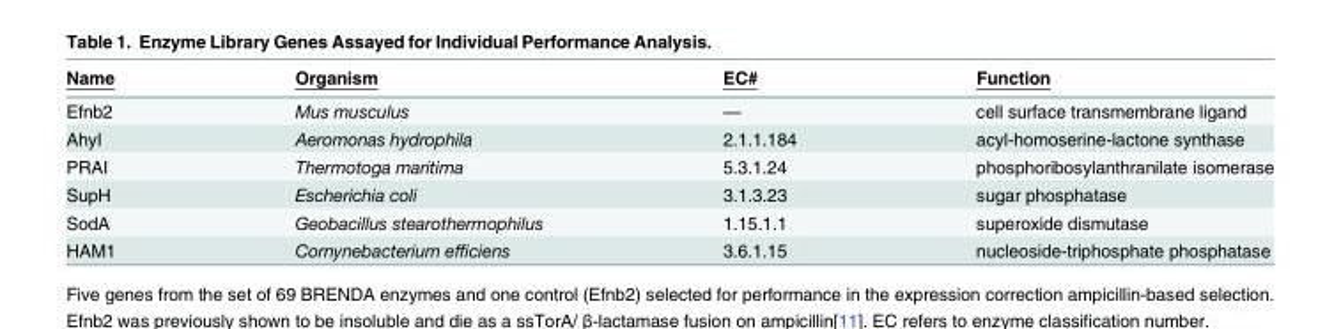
<table><thead><tr><td>Name</td><td>Organism</td><td>EC#</td><td>Function</td></tr></thead><tbody><tr><td>Efnb2</td><td>Mus musculus</td><td>—</td><td>cell surface transmembrane ligand</td></tr><tr><td>AhyI</td><td>Aeromonas hydrophila</td><td>2.1.1.184</td><td>acyl-homoserine-lactone synthase</td></tr><tr><td>PRAI</td><td>Thermotoga maritima</td><td>5.3.1.24</td><td>phosphoribosylanthranilate isomerase</td></tr><tr><td>SupH</td><td>Escherichia coli</td><td>3.1.3.23</td><td>sugar phosphatase</td></tr><tr><td>SodA</td><td>Geobacillus stearothermophilus</td><td>1.15.1.1</td><td>superoxide dismutase</td></tr><tr><td>HAM1</td><td>Cornynebacterium efficiens</td><td>3.6.1.15</td><td>nucleoside-triphosphate phosphatase</td></tr></tbody></table>